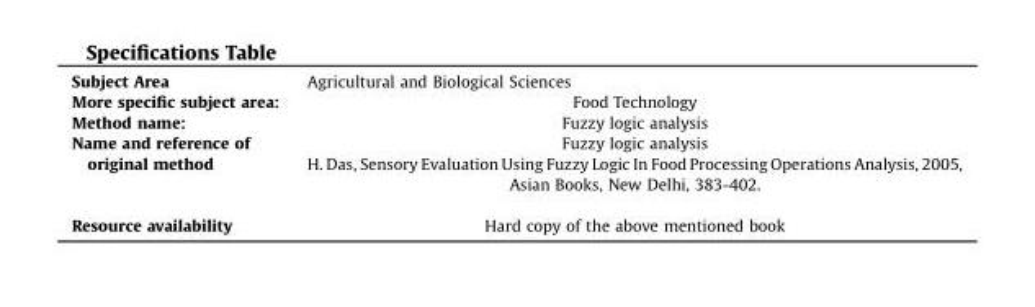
<table><tbody><tr><td>Subject Area</td><td>Agricultural and Biological Sciences</td></tr><tr><td>More specific subject area:</td><td>Food Technology</td></tr><tr><td>Method name:</td><td>Fuzzy logic analysis</td></tr><tr><td>Name and reference of original method</td><td>Fuzzy logic analysis H. Das, Sensory Evaluation Using Fuzzy Logic In Food Processing Operations Analysis, 2005, Asian Books, New Delhi, 383-402.</td></tr><tr><td>Resource availability</td><td>Hard copy of the above mentioned book</td></tr></tbody></table>